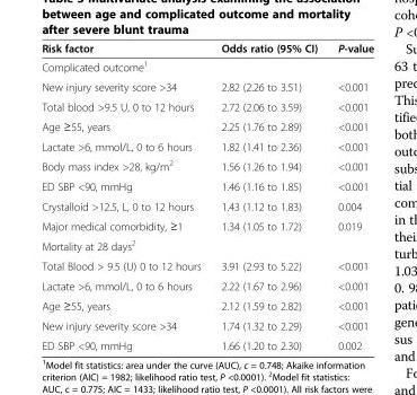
<table><thead><tr><td>Risk factor</td><td>Odds ratio (95% CI)</td><td>P-value</td></tr></thead><tbody><tr><td colspan="3">Complicated outcome<sup>1</sup></td></tr><tr><td>New injury severity score &gt;34</td><td>2.82 (2.26 to 3.51)</td><td>&lt;0.001</td></tr><tr><td>Total blood &gt;9.5 U, 0 to 12 hours</td><td>2.72 (2.06 to 3.59)</td><td>&lt;0.001</td></tr><tr><td>Age ≥55, years</td><td>2.25 (1.76 to 2.89)</td><td>&lt;0.001</td></tr><tr><td>Lactate &gt;6, mmol/L, 0 to 6 hours</td><td>1.82 (1.41 to 2.36)</td><td>&lt;0.001</td></tr><tr><td>Body mass index &gt;28, kg/m<sup>2</sup></td><td>1.56 (1.26 to 1.94)</td><td>&lt;0.001</td></tr><tr><td>ED SBP &lt;90, mmHg</td><td>1.46 (1.16 to 1.85)</td><td>&lt;0.001</td></tr><tr><td>Crystalloid &gt;12.5, L, 0 to 12 hours</td><td>1.43 (1.12 to 1.83)</td><td>0.004</td></tr><tr><td>Major medical comorbidity, ≥1</td><td>1.34 (1.05 to 1.72)</td><td>0.019</td></tr><tr><td colspan="3">Mortality at 28 days<sup>2</sup></td></tr><tr><td>Total Blood &gt; 9.5 (U) 0 to 12 hours</td><td>3.91 (2.93 to 5.22)</td><td>&lt;0.001</td></tr><tr><td>Lactate &gt;6, mmol/L, 0 to 6 hours</td><td>2.22 (1.67 to 2.96)</td><td>&lt;0.001</td></tr><tr><td>Age ≥55, years</td><td>2.12 (1.59 to 2.82)</td><td>&lt;0.001</td></tr><tr><td>New injury severity score &gt;34</td><td>1.74 (1.32 to 2.29)</td><td>&lt;0.001</td></tr><tr><td>ED SBP &lt;90, mmHg</td><td>1.66 (1.20 to 2.30)</td><td>0.002</td></tr></tbody></table>